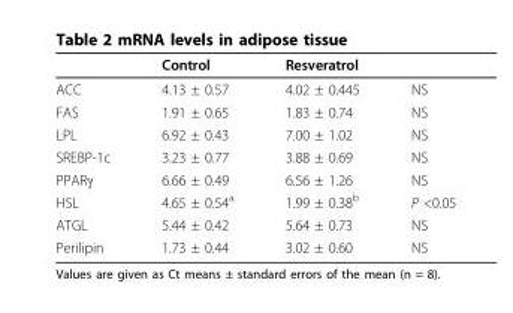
<table><thead><tr><td></td><td>Control</td><td>Resveratrol</td><td></td></tr></thead><tbody><tr><td>ACC</td><td>4.13 ± 0.57</td><td>4.02 ± 0.445</td><td>NS</td></tr><tr><td>FAS</td><td>1.91 ± 0.65</td><td>1.83 ± 0.74</td><td>NS</td></tr><tr><td>LPL</td><td>6.92 ± 0.43</td><td>7.00 ± 1.02</td><td>NS</td></tr><tr><td>SREBP-1c</td><td>3.23 ± 0.77</td><td>3.88 ± 0.69</td><td>NS</td></tr><tr><td>PPARγ</td><td>6.66 ± 0.49</td><td>6.56 ± 1.26</td><td>NS</td></tr><tr><td>HSL</td><td>4.65 ± 0.54<sup>a</sup></td><td>1.99 ± 0.38<sup>b</sup></td><td>P &lt;0.05</td></tr><tr><td>ATGL</td><td>5.44 ± 0.42</td><td>5.64 ± 0.73</td><td>NS</td></tr><tr><td>Perilipin</td><td>1.73 ± 0.44</td><td>3.02 ± 0.60</td><td>NS</td></tr></tbody></table>